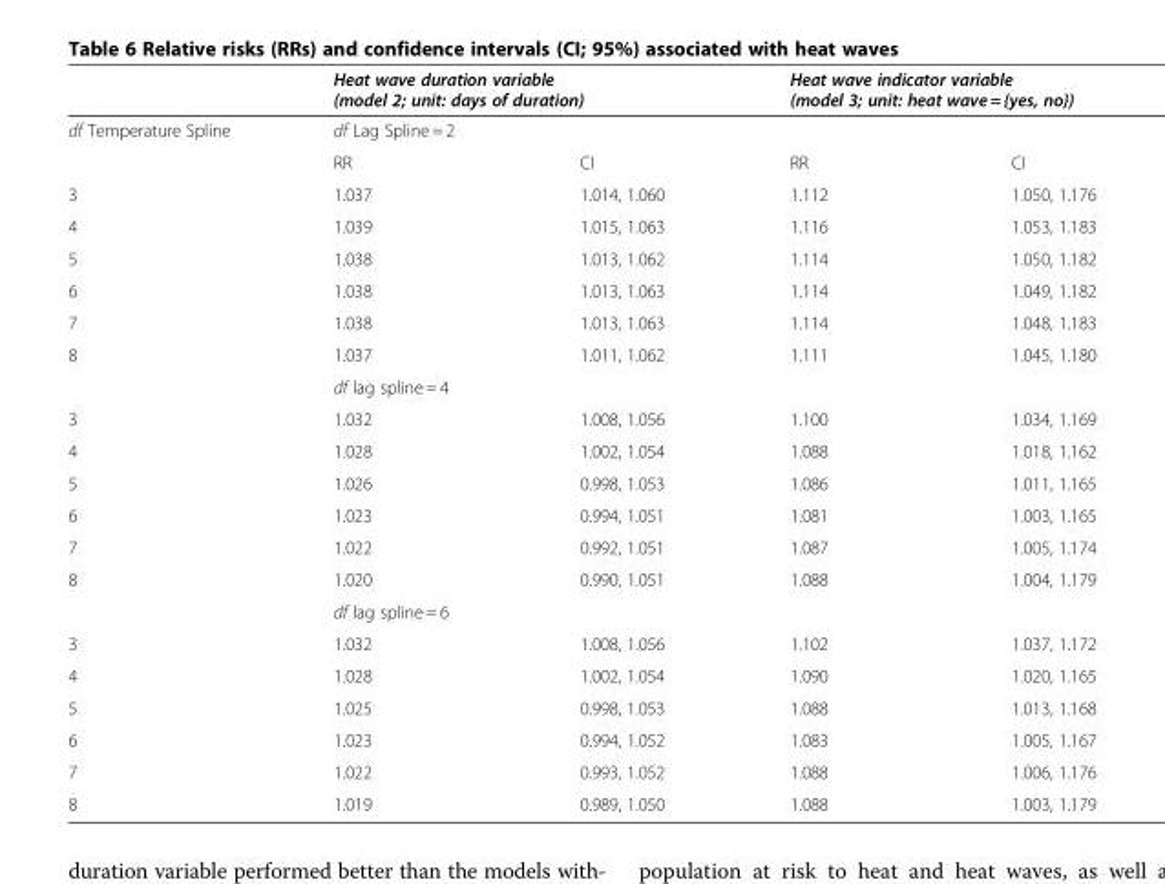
<table><thead><tr><td rowspan="2">df Temperature Spline</td><td colspan="2">Heat wave duration variable (model 2; unit: days of duration)</td><td colspan="2">Heat wave indicator variable (model 3; unit: heat wave = {yes, no})</td></tr><tr><td>df Lag Spline = 2</td><td></td><td></td><td></td></tr></thead><tbody><tr><td></td><td>RR</td><td>CI</td><td>RR</td><td>CI</td></tr><tr><td>3</td><td>1.037</td><td>1.014, 1.060</td><td>1.112</td><td>1.050, 1.176</td></tr><tr><td>4</td><td>1.039</td><td>1.015, 1.063</td><td>1.116</td><td>1.053, 1.183</td></tr><tr><td>5</td><td>1.038</td><td>1.013, 1.062</td><td>1.114</td><td>1.050, 1.182</td></tr><tr><td>6</td><td>1.038</td><td>1.013, 1.063</td><td>1.114</td><td>1.049, 1.182</td></tr><tr><td>7</td><td>1.038</td><td>1.013, 1.063</td><td>1.114</td><td>1.048, 1.183</td></tr><tr><td rowspan="2">8</td><td>1.037</td><td>1.011, 1.062</td><td>1.111</td><td>1.045, 1.180</td></tr><tr><td>df lag spline = 4</td><td></td><td></td><td></td></tr><tr><td>3</td><td>1.032</td><td>1.008, 1.056</td><td>1.100</td><td>1.034, 1.169</td></tr><tr><td>4</td><td>1.028</td><td>1.002, 1.054</td><td>1.088</td><td>1.018, 1.162</td></tr><tr><td>5</td><td>1.026</td><td>0.998, 1.053</td><td>1.086</td><td>1.011, 1.165</td></tr><tr><td>6</td><td>1.023</td><td>0.994, 1.051</td><td>1.081</td><td>1.003, 1.165</td></tr><tr><td>7</td><td>1.022</td><td>0.992, 1.051</td><td>1.087</td><td>1.005, 1.174</td></tr><tr><td rowspan="2">8</td><td>1.020</td><td>0.990, 1.051</td><td>1.088</td><td>1.004, 1.179</td></tr><tr><td>df lag spline = 6</td><td></td><td></td><td></td></tr><tr><td>3</td><td>1.032</td><td>1.008, 1.056</td><td>1.102</td><td>1.037, 1.172</td></tr><tr><td>4</td><td>1.028</td><td>1.002, 1.054</td><td>1.090</td><td>1.020, 1.165</td></tr><tr><td>5</td><td>1.025</td><td>0.998, 1.053</td><td>1.088</td><td>1.013, 1.168</td></tr><tr><td>6</td><td>1.023</td><td>0.994, 1.052</td><td>1.083</td><td>1.005, 1.167</td></tr><tr><td>7</td><td>1.022</td><td>0.993, 1.052</td><td>1.088</td><td>1.006, 1.176</td></tr><tr><td>8</td><td>1.019</td><td>0.989, 1.050</td><td>1.088</td><td>1.003, 1.179</td></tr></tbody></table>